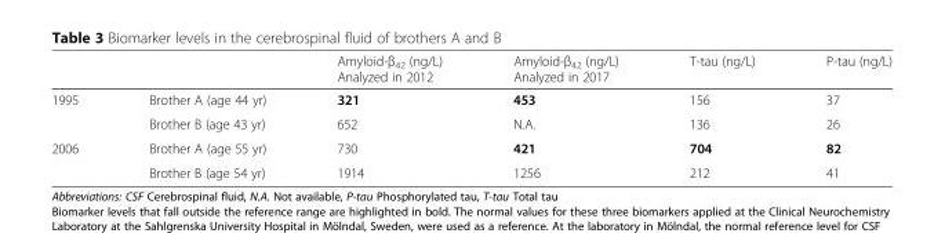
<table><thead><tr><td></td><td></td><td>Amyloid-β<sub>42</sub> (ng/L) Analyzed in 2012</td><td>Amyloid-β<sub>42</sub> (ng/L) Analyzed in 2017</td><td>T-tau (ng/L)</td><td>P-tau (ng/L)</td></tr></thead><tbody><tr><td rowspan="2">1995</td><td>Brother A (age 44 yr)</td><td>321</td><td>453</td><td>156</td><td>37</td></tr><tr><td>Brother B (age 43 yr)</td><td>652</td><td>N.A.</td><td>136</td><td>26</td></tr><tr><td rowspan="2">2006</td><td>Brother A (age 55 yr)</td><td>730</td><td>421</td><td>704</td><td>82</td></tr><tr><td>Brother B (age 54 yr)</td><td>1914</td><td>1256</td><td>212</td><td>41</td></tr></tbody></table>